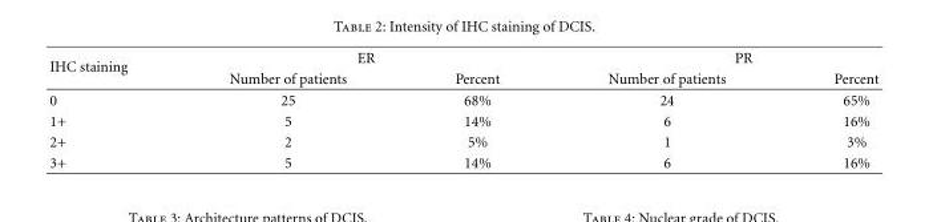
<table><thead><tr><td rowspan="2">IHC staining</td><td colspan="2">ER</td><td colspan="2">PR</td></tr><tr><td>Number of patients</td><td>Percent</td><td>Number of patients</td><td>Percent</td></tr></thead><tbody><tr><td>0</td><td>25</td><td>68%</td><td>24</td><td>65%</td></tr><tr><td>1+</td><td>5</td><td>14%</td><td>6</td><td>16%</td></tr><tr><td>2+</td><td>2</td><td>5%</td><td>1</td><td>3%</td></tr><tr><td>3+</td><td>5</td><td>14%</td><td>6</td><td>16%</td></tr></tbody></table>